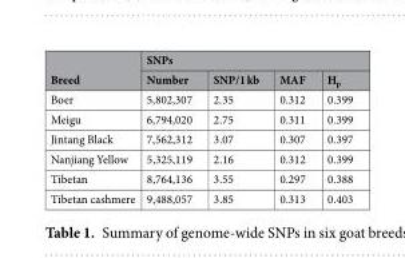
<table><thead><tr><td rowspan="2">Breed</td><td colspan="4">SNPs</td></tr><tr><td>Number</td><td>SNP/1 kb</td><td>MAF</td><td>H<sub>p</sub></td></tr></thead><tbody><tr><td>Boer</td><td>5,802,307</td><td>2.35</td><td>0.312</td><td>0.399</td></tr><tr><td>Meigu</td><td>6,794,020</td><td>2.75</td><td>0.311</td><td>0.399</td></tr><tr><td>Jintang Black</td><td>7,562,312</td><td>3.07</td><td>0.307</td><td>0.397</td></tr><tr><td>Nanjiang Yellow</td><td>5,325,119</td><td>2.16</td><td>0.312</td><td>0.399</td></tr><tr><td>Tibetan</td><td>8,764,136</td><td>3.55</td><td>0.297</td><td>0.388</td></tr><tr><td>Tibetan cashmere</td><td>9,488,057</td><td>3.85</td><td>0.313</td><td>0.403</td></tr></tbody></table>